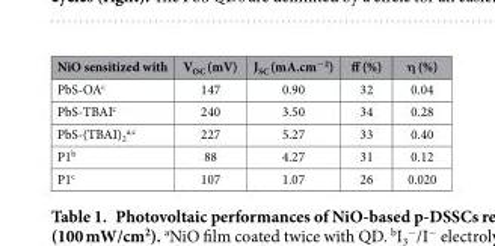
<table><thead><tr><td>NiO sensitized with</td><td>V<sub>OC</sub> (mV)</td><td>J<sub>SC</sub> (mA.cm<sup>−2</sup>)</td><td>ff (%)</td><td>η (%)</td></tr></thead><tbody><tr><td>PbS-OA<sup>c</sup></td><td>147</td><td>0.90</td><td>32</td><td>0.04</td></tr><tr><td>PbS-TBAI<sup>c</sup></td><td>240</td><td>3.50</td><td>34</td><td>0.28</td></tr><tr><td>PbS-(TBAI)<sub>2</sub> <sup>a,c</sup></td><td>227</td><td>5.27</td><td>33</td><td>0.40</td></tr><tr><td>P1<sup>b</sup></td><td>88</td><td>4.27</td><td>31</td><td>0.12</td></tr><tr><td>P1<sup>c</sup></td><td>107</td><td>1.07</td><td>26</td><td>0.020</td></tr></tbody></table>